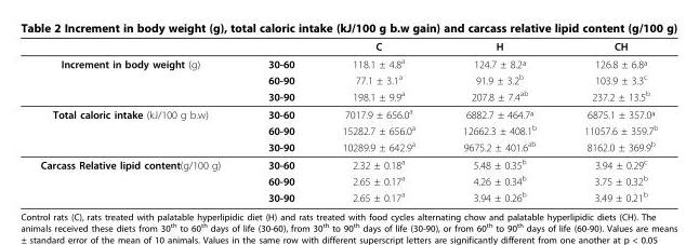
<table><thead><tr><td></td><td></td><td>C</td><td>H</td><td>CH</td></tr></thead><tbody><tr><td rowspan="3">Increment in body weight (g)</td><td>30-60</td><td>118.1 ± 4.8<sup>a</sup></td><td>124.7 ± 8.2ª</td><td>126.8 ± 6.8ª</td></tr><tr><td>60-90</td><td>77.1 ± 3.1<sup>a</sup></td><td>91.9 ± 3.2<sup>b</sup></td><td>103.9 ± 3.3<sup>c</sup></td></tr><tr><td>30-90</td><td>198.1 ± 9.9<sup>a</sup></td><td>207.8 ± 7.4<sup>ab</sup></td><td>237.2 ± 13.5<sup>b</sup></td></tr><tr><td rowspan="3">Total caloric intake (kJ/100 g b.w)</td><td>30-60</td><td>7017.9 ± 656.0<sup>a</sup></td><td>6882.7 ± 464.7ª</td><td>6875.1 ± 357.0ª</td></tr><tr><td>60-90</td><td>15282.7 ± 656.0<sup>a</sup></td><td>12662.3 ± 408.1<sup>b</sup></td><td>11057.6 ± 359.7<sup>b</sup></td></tr><tr><td>30-90</td><td>10289.9 ± 642.9<sup>a</sup></td><td>9675.2 ± 401.6<sup>ab</sup></td><td>8162.0 ± 369.9<sup>b</sup></td></tr><tr><td rowspan="3">Carcass Relative lipid content(g/100 g)</td><td>30-60</td><td>2.32 ± 0.18<sup>a</sup></td><td>5.48 ± 0.35<sup>b</sup></td><td>3.94 ± 0.29<sup>c</sup></td></tr><tr><td>60-90</td><td>2.65 ± 0.17<sup>a</sup></td><td>4.26 ± 0.34<sup>b</sup></td><td>3.75 ± 0.32<sup>b</sup></td></tr><tr><td>30-90</td><td>2.65 ± 0.17<sup>a</sup></td><td>3.94 ± 0.26<sup>b</sup></td><td>3.49 ± 0.21<sup>b</sup></td></tr></tbody></table>